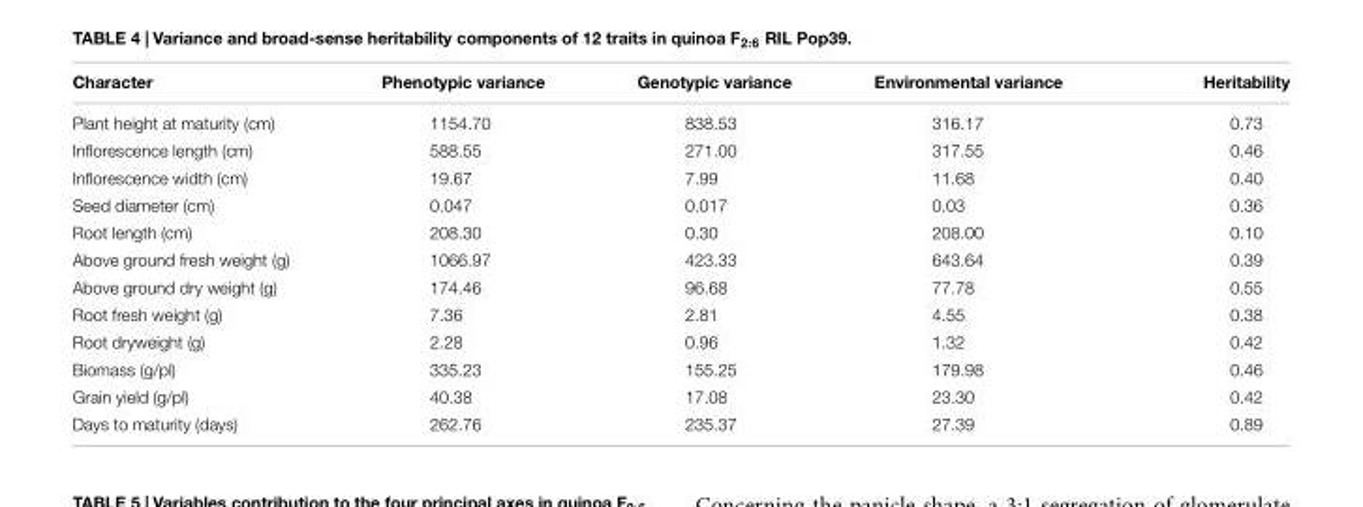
<table><thead><tr><td>Character</td><td>Phenotypic variance</td><td>Genotypic variance</td><td>Environmental variance</td><td>Heritability</td></tr></thead><tbody><tr><td>Plant height at maturity (cm)</td><td>1154.70</td><td>838.53</td><td>316.17</td><td>0.73</td></tr><tr><td>Inflorescence length (cm)</td><td>588.55</td><td>271.00</td><td>317.55</td><td>0.46</td></tr><tr><td>Inflorescence width (cm)</td><td>19.67</td><td>7.99</td><td>11.68</td><td>0.40</td></tr><tr><td>Seed diameter (cm)</td><td>0.047</td><td>0.017</td><td>0.03</td><td>0.36</td></tr><tr><td>Root length (cm)</td><td>208.30</td><td>0.30</td><td>208.00</td><td>0.10</td></tr><tr><td>Above ground fresh weight (g)</td><td>1066.97</td><td>423.33</td><td>643.64</td><td>0.39</td></tr><tr><td>Above ground dry weight (g)</td><td>174.46</td><td>96.68</td><td>77.78</td><td>0.55</td></tr><tr><td>Root fresh weight (g)</td><td>7.36</td><td>2.81</td><td>4.55</td><td>0.38</td></tr><tr><td>Root dryweight (g)</td><td>2.28</td><td>0.96</td><td>1.32</td><td>0.42</td></tr><tr><td>Biomass (g/pl)</td><td>335.23</td><td>155.25</td><td>179.98</td><td>0.46</td></tr><tr><td>Grain yield (g/pl)</td><td>40.38</td><td>17.08</td><td>23.30</td><td>0.42</td></tr><tr><td>Days to maturity (days)</td><td>262.76</td><td>235.37</td><td>27.39</td><td>0.89</td></tr></tbody></table>